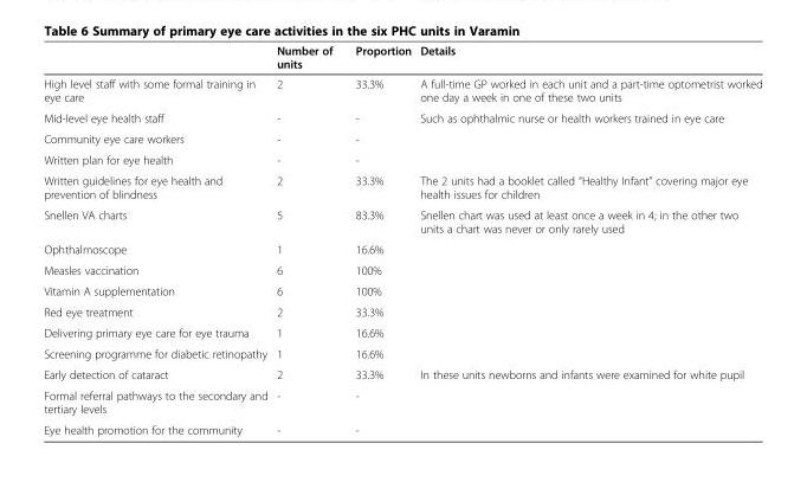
<table><thead><tr><td></td><td>Number of units</td><td>Proportion</td><td>Details</td></tr></thead><tbody><tr><td>High level staff with some formal training in eye care</td><td>2</td><td>33.3%</td><td>A full-time GP worked in each unit and a part-time optometrist worked one day a week in one of these two units</td></tr><tr><td>Mid-level eye health staff</td><td>-</td><td>-</td><td>Such as ophthalmic nurse or health workers trained in eye care</td></tr><tr><td>Community eye care workers</td><td>-</td><td>-</td><td></td></tr><tr><td>Written plan for eye health</td><td>-</td><td>-</td><td></td></tr><tr><td>Written guidelines for eye health and prevention of blindness</td><td>2</td><td>33.3%</td><td>The 2 units had a booklet called “Healthy Infant” covering major eye health issues for children</td></tr><tr><td>Snellen VA charts</td><td>5</td><td>83.3%</td><td>Snellen chart was used at least once a week in 4; in the other two units a chart was never or only rarely used</td></tr><tr><td>Ophthalmoscope</td><td>1</td><td>16.6%</td><td></td></tr><tr><td>Measles vaccination</td><td>6</td><td>100%</td><td></td></tr><tr><td>Vitamin A supplementation</td><td>6</td><td>100%</td><td></td></tr><tr><td>Red eye treatment</td><td>2</td><td>33.3%</td><td></td></tr><tr><td>Delivering primary eye care for eye trauma</td><td>1</td><td>16.6%</td><td></td></tr><tr><td>Screening programme for diabetic retinopathy</td><td>1</td><td>16.6%</td><td></td></tr><tr><td>Early detection of cataract</td><td>2</td><td>33.3%</td><td>In these units newborns and infants were examined for white pupil</td></tr><tr><td>Formal referral pathways to the secondary and tertiary levels</td><td>-</td><td>-</td><td></td></tr><tr><td>Eye health promotion for the community</td><td>-</td><td>-</td><td></td></tr></tbody></table>